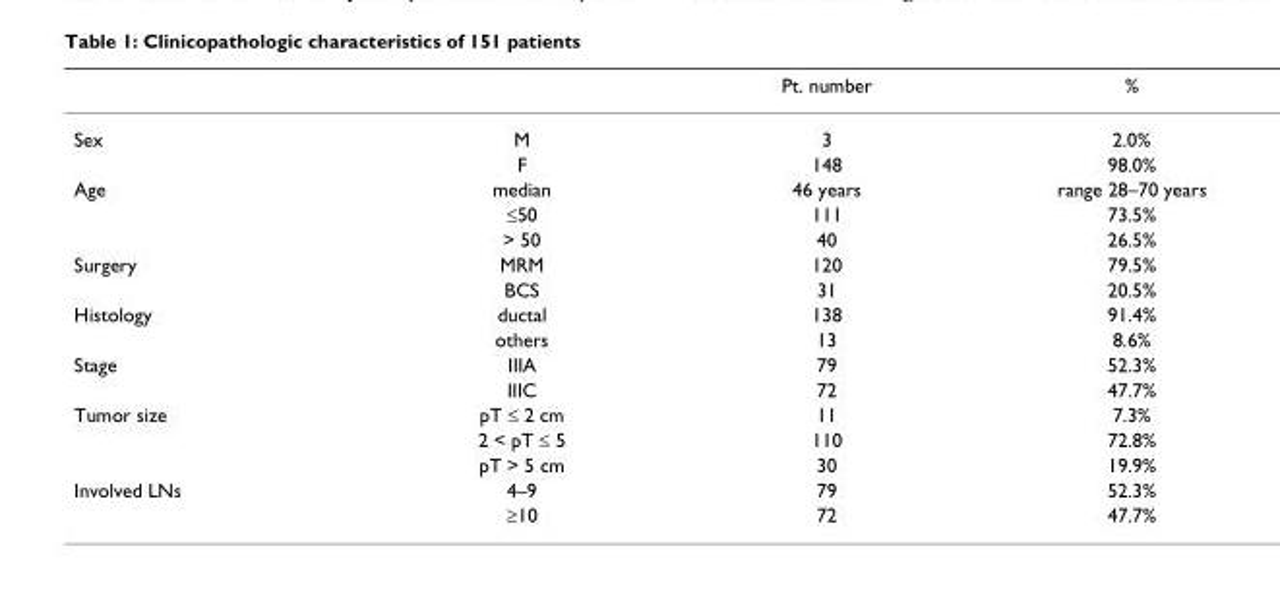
<table><thead><tr><td></td><td></td><td>Pt. number</td><td>%</td></tr></thead><tbody><tr><td rowspan="2">Sex</td><td>M</td><td>3</td><td>2.0%</td></tr><tr><td>F</td><td>148</td><td>98.0%</td></tr><tr><td rowspan="3">Age</td><td>median</td><td>46 years</td><td>range 28–70 years</td></tr><tr><td>≤50</td><td>111</td><td>73.5%</td></tr><tr><td>&gt; 50</td><td>40</td><td>26.5%</td></tr><tr><td rowspan="2">Surgery</td><td>MRM</td><td>120</td><td>79.5%</td></tr><tr><td>BCS</td><td>31</td><td>20.5%</td></tr><tr><td rowspan="2">Histology</td><td>ductal</td><td>138</td><td>91.4%</td></tr><tr><td>others</td><td>13</td><td>8.6%</td></tr><tr><td rowspan="2">Stage</td><td>IIIA</td><td>79</td><td>52.3%</td></tr><tr><td>IIIC</td><td>72</td><td>47.7%</td></tr><tr><td rowspan="3">Tumor size</td><td>pT ≤ 2 cm</td><td>11</td><td>7.3%</td></tr><tr><td>2 &lt; pT ≤ 5</td><td>110</td><td>72.8%</td></tr><tr><td>pT &gt; 5 cm</td><td>30</td><td>19.9%</td></tr><tr><td rowspan="2">Involved LNs</td><td>4–9</td><td>79</td><td>52.3%</td></tr><tr><td>≥10</td><td>72</td><td>47.7%</td></tr></tbody></table>